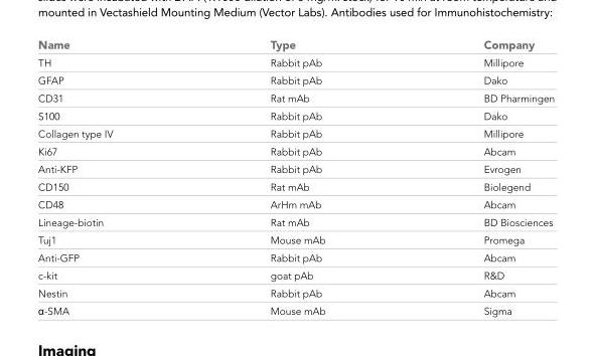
<table><thead><tr><td>Name</td><td>Type</td><td>Company</td></tr></thead><tbody><tr><td>TH</td><td>Rabbit pAb</td><td>Millipore</td></tr><tr><td>GFAP</td><td>Rabbit pAb</td><td>Dako</td></tr><tr><td>CD31</td><td>Rat mAb</td><td>BD Pharmingen</td></tr><tr><td>S100</td><td>Rabbit pAb</td><td>Dako</td></tr><tr><td>Collagen type IV</td><td>Rabbit pAb</td><td>Millipore</td></tr><tr><td>Ki67</td><td>Rabbit pAb</td><td>Abcam</td></tr><tr><td>Anti-KFP</td><td>Rabbit pAb</td><td>Evrogen</td></tr><tr><td>CD150</td><td>Rat mAb</td><td>Biolegend</td></tr><tr><td>CD48</td><td>ArHm mAb</td><td>Abcam</td></tr><tr><td>Lineage-biotin</td><td>Rat mAb</td><td>BD Biosciences</td></tr><tr><td>Tuj1</td><td>Mouse mAb</td><td>Promega</td></tr><tr><td>Anti-GFP</td><td>Rabbit pAb</td><td>Abcam</td></tr><tr><td>c-kit</td><td>goat pAb</td><td>R&amp;D</td></tr><tr><td>Nestin</td><td>Rabbit pAb</td><td>Abcam</td></tr><tr><td>α-SMA</td><td>Mouse mAb</td><td>Sigma</td></tr></tbody></table>